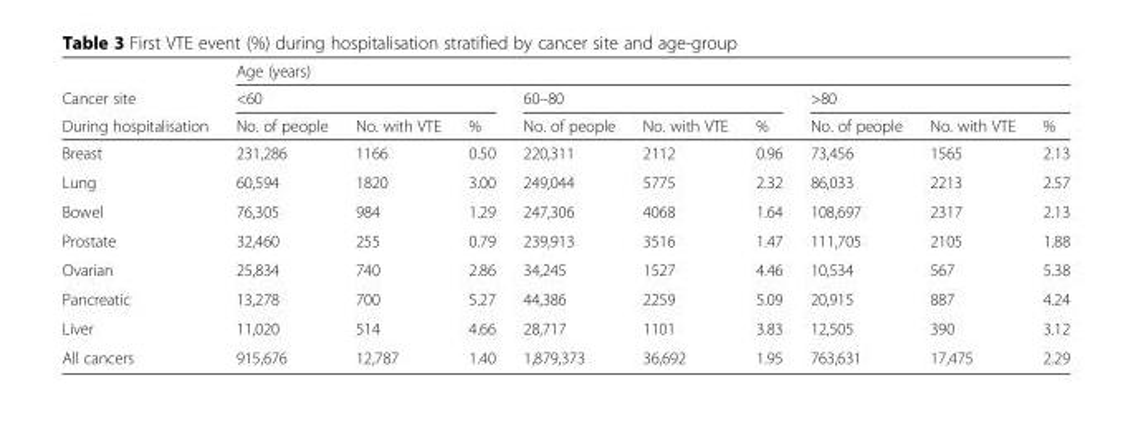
<table><thead><tr><td rowspan="3">Cancer site During hospitalisation</td><td colspan="9">Age (years)</td></tr><tr><td colspan="3">&lt;60</td><td colspan="3">60–80</td><td colspan="3">&gt;80</td></tr><tr><td>No. of people</td><td>No. with VTE</td><td>%</td><td>No. of people</td><td>No. with VTE</td><td>%</td><td>No. of people</td><td>No. with VTE</td><td>%</td></tr></thead><tbody><tr><td>Breast</td><td>231,286</td><td>1166</td><td>0.50</td><td>220,311</td><td>2112</td><td>0.96</td><td>73,456</td><td>1565</td><td>2.13</td></tr><tr><td>Lung</td><td>60,594</td><td>1820</td><td>3.00</td><td>249,044</td><td>5775</td><td>2.32</td><td>86,033</td><td>2213</td><td>2.57</td></tr><tr><td>Bowel</td><td>76,305</td><td>984</td><td>1.29</td><td>247,306</td><td>4068</td><td>1.64</td><td>108,697</td><td>2317</td><td>2.13</td></tr><tr><td>Prostate</td><td>32,460</td><td>255</td><td>0.79</td><td>239,913</td><td>3516</td><td>1.47</td><td>111,705</td><td>2105</td><td>1.88</td></tr><tr><td>Ovarian</td><td>25,834</td><td>740</td><td>2.86</td><td>34,245</td><td>1527</td><td>4.46</td><td>10,534</td><td>567</td><td>5.38</td></tr><tr><td>Pancreatic</td><td>13,278</td><td>700</td><td>5.27</td><td>44,386</td><td>2259</td><td>5.09</td><td>20,915</td><td>887</td><td>4.24</td></tr><tr><td>Liver</td><td>11,020</td><td>514</td><td>4.66</td><td>28,717</td><td>1101</td><td>3.83</td><td>12,505</td><td>390</td><td>3.12</td></tr><tr><td>All cancers</td><td>915,676</td><td>12,787</td><td>1.40</td><td>1,879,373</td><td>36,692</td><td>1.95</td><td>763,631</td><td>17,475</td><td>2.29</td></tr></tbody></table>